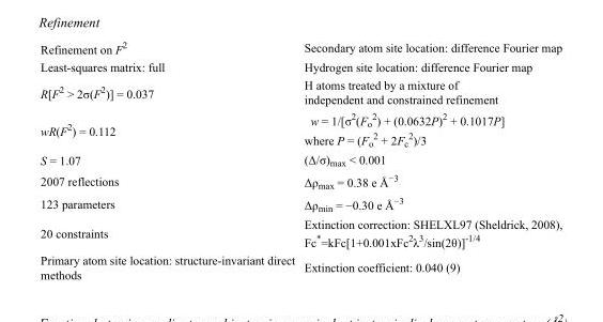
<table><tbody><tr><td>Refinement on F<sup>2</sup></td><td>Secondary atom site location: difference Fourier map</td></tr><tr><td>Least-squares matrix: full</td><td>Hydrogen site location: difference Fourier map</td></tr><tr><td>R[F<sup>2</sup> &gt; 2σ(F<sup>2</sup>)] = 0.037</td><td>H atoms treated by a mixture of independent and constrained refinement</td></tr><tr><td>wR(F<sup>2</sup>) = 0.112</td><td>w = 1/[σ<sup>2</sup>(F<sub>o</sub> <sup>2</sup>) + (0.0632P)<sup>2</sup> + 0.1017P] where P = (F<sub>o</sub> <sup>2</sup> + 2F<sub>c</sub> <sup>2</sup>)/3</td></tr><tr><td>S = 1.07</td><td>(Δ/σ)<sub>max</sub> &lt; 0.001</td></tr><tr><td>2007 reflections</td><td>Δρ<sub>max</sub> = 0.38 e Å<sup>−3</sup></td></tr><tr><td>123 parameters</td><td>Δρ<sub>min</sub> = −0.30 e Å<sup>−3</sup></td></tr><tr><td>20 constraints</td><td>Extinction correction: SHELXL97 (Sheldrick, 2008), Fc*=kFc[1+0.001xFc<sup>2</sup>λ<sup>3</sup>/sin(2θ)]<sup>-1/4</sup></td></tr><tr><td>Primary atom site location: structure-invariant direct methods</td><td>Extinction coefficient: 0.040 (9)</td></tr></tbody></table>